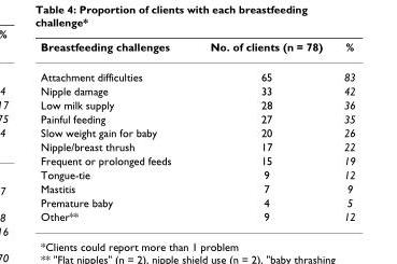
<table><thead><tr><td>Breastfeeding challenges</td><td>No. of clients (n = 78)</td><td>%</td></tr></thead><tbody><tr><td>Attachment difficulties</td><td>65</td><td>83</td></tr><tr><td>Nipple damage</td><td>33</td><td>42</td></tr><tr><td>Low milk supply</td><td>28</td><td>36</td></tr><tr><td>Painful feeding</td><td>27</td><td>35</td></tr><tr><td>Slow weight gain for baby</td><td>20</td><td>26</td></tr><tr><td>Nipple/breast thrush</td><td>17</td><td>22</td></tr><tr><td>Frequent or prolonged feeds</td><td>15</td><td>19</td></tr><tr><td>Tongue-tie</td><td>9</td><td>12</td></tr><tr><td>Mastitis</td><td>7</td><td>9</td></tr><tr><td>Premature baby</td><td>4</td><td>5</td></tr><tr><td>Other**</td><td>9</td><td>12</td></tr></tbody></table>